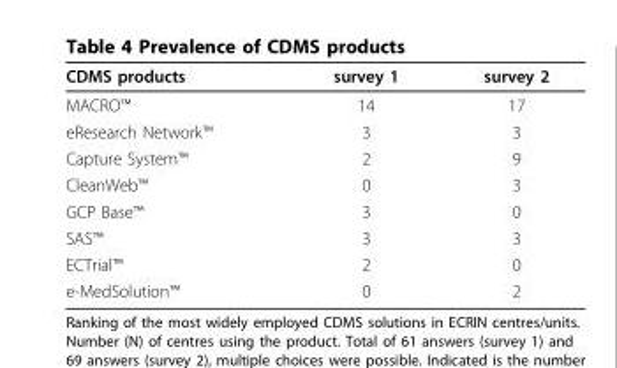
<table><thead><tr><td>CDMS products</td><td>survey 1</td><td>survey 2</td></tr></thead><tbody><tr><td>MACRO™</td><td>14</td><td>17</td></tr><tr><td>eResearch Network™</td><td>3</td><td>3</td></tr><tr><td>Capture System™</td><td>2</td><td>9</td></tr><tr><td>CleanWeb™</td><td>0</td><td>3</td></tr><tr><td>GCP Base™</td><td>3</td><td>0</td></tr><tr><td>SAS™</td><td>3</td><td>3</td></tr><tr><td>ECTrial™</td><td>2</td><td>0</td></tr><tr><td>e-MedSolution™</td><td>0</td><td>2</td></tr></tbody></table>